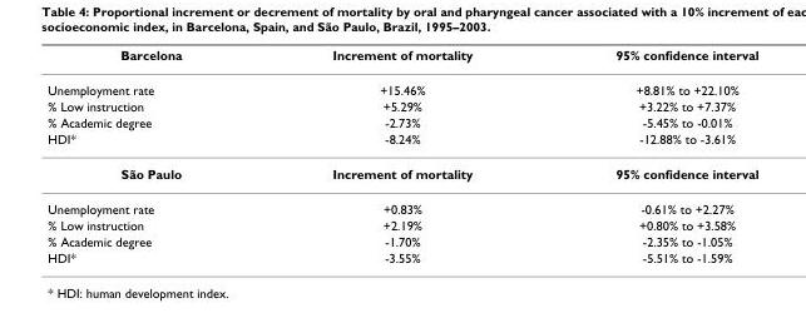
<table><thead><tr><td>Barcelona</td><td>Increment of mortality</td><td>95% confidence interval</td></tr></thead><tbody><tr><td>Unemployment rate</td><td>+15.46%</td><td>+8.81% to +22.10%</td></tr><tr><td>% Low instruction</td><td>+5.29%</td><td>+3.22% to +7.37%</td></tr><tr><td>% Academic degree</td><td>-2.73%</td><td>-5.45% to -0.01%</td></tr><tr><td>HDI*</td><td>-8.24%</td><td>-12.88% to -3.61%</td></tr><tr><td>São Paulo</td><td>Increment of mortality</td><td>95% confidence interval</td></tr><tr><td>Unemployment rate</td><td>+0.83%</td><td>-0.61% to +2.27%</td></tr><tr><td>% Low instruction</td><td>+2.19%</td><td>+0.80% to +3.58%</td></tr><tr><td>% Academic degree</td><td>-1.70%</td><td>-2.35% to -1.05%</td></tr><tr><td>HDI*</td><td>-3.55%</td><td>-5.51% to -1.59%</td></tr></tbody></table>